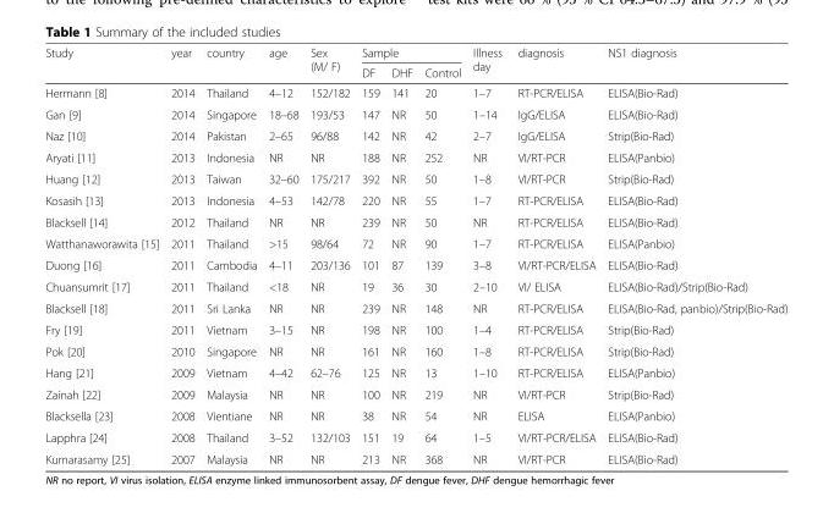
<table><thead><tr><td rowspan="2">Study</td><td rowspan="2">year</td><td rowspan="2">country</td><td rowspan="2">age</td><td rowspan="2">Sex (M/ F)</td><td colspan="3">Sample</td><td rowspan="2">Illness day</td><td rowspan="2">diagnosis</td><td rowspan="2">NS1 diagnosis</td></tr><tr><td>DF</td><td>DHF</td><td>Control</td></tr></thead><tbody><tr><td>Hermann [8]</td><td>2014</td><td>Thailand</td><td>4–12</td><td>152/182</td><td>159</td><td>141</td><td>20</td><td>1–7</td><td>RT-PCR/ELISA</td><td>ELISA(Bio-Rad)</td></tr><tr><td>Gan [9]</td><td>2014</td><td>Singapore</td><td>18–68</td><td>193/53</td><td>147</td><td>NR</td><td>50</td><td>1–14</td><td>IgG/ELISA</td><td>ELISA(Bio-Rad)</td></tr><tr><td>Naz [10]</td><td>2014</td><td>Pakistan</td><td>2–65</td><td>96/88</td><td>142</td><td>NR</td><td>42</td><td>2–7</td><td>IgG/ELISA</td><td>Strip(Bio-Rad)</td></tr><tr><td>Aryati [11]</td><td>2013</td><td>Indonesia</td><td>NR</td><td>NR</td><td>188</td><td>NR</td><td>252</td><td>NR</td><td>VI/RT-PCR</td><td>ELISA(Panbio)</td></tr><tr><td>Huang [12]</td><td>2013</td><td>Taiwan</td><td>32–60</td><td>175/217</td><td>392</td><td>NR</td><td>50</td><td>1–8</td><td>VI/RT-PCR</td><td>Strip(Bio-Rad)</td></tr><tr><td>Kosasih [13]</td><td>2013</td><td>Indonesia</td><td>4–53</td><td>142/78</td><td>220</td><td>NR</td><td>55</td><td>1–7</td><td>RT-PCR/ELISA</td><td>ELISA(Bio-Rad)</td></tr><tr><td>Blacksell [14]</td><td>2012</td><td>Thailand</td><td>NR</td><td>NR</td><td>239</td><td>NR</td><td>50</td><td>NR</td><td>RT-PCR/ELISA</td><td>ELISA(Bio-Rad)</td></tr><tr><td>Watthanaworawita [15]</td><td>2011</td><td>Thailand</td><td>&gt;15</td><td>98/64</td><td>72</td><td>NR</td><td>90</td><td>1–7</td><td>RT-PCR/ELISA</td><td>ELISA(Panbio)</td></tr><tr><td>Duong [16]</td><td>2011</td><td>Cambodia</td><td>4–11</td><td>203/136</td><td>101</td><td>87</td><td>139</td><td>3–8</td><td>VI/RT-PCR/ELISA</td><td>ELISA(Bio-Rad)</td></tr><tr><td>Chuansumrit [17]</td><td>2011</td><td>Thailand</td><td>&lt;18</td><td>NR</td><td>19</td><td>36</td><td>30</td><td>2–10</td><td>VI/ ELISA</td><td>ELISA(Bio-Rad)/Strip(Bio-Rad)</td></tr><tr><td>Blacksell [18]</td><td>2011</td><td>Sri Lanka</td><td>NR</td><td>NR</td><td>239</td><td>NR</td><td>148</td><td>NR</td><td>RT-PCR/ELISA</td><td>ELISA(Bio-Rad, panbio)/Strip(Bio-Rad)</td></tr><tr><td>Fry [19]</td><td>2011</td><td>Vietnam</td><td>3–15</td><td>NR</td><td>198</td><td>NR</td><td>100</td><td>1–4</td><td>RT-PCR/ELISA</td><td>Strip(Bio-Rad)</td></tr><tr><td>Pok [20]</td><td>2010</td><td>Singapore</td><td>NR</td><td>NR</td><td>161</td><td>NR</td><td>160</td><td>1–8</td><td>RT-PCR/ELISA</td><td>Strip(Bio-Rad)</td></tr><tr><td>Hang [21]</td><td>2009</td><td>Vietnam</td><td>4–42</td><td>62–76</td><td>125</td><td>NR</td><td>13</td><td>1–10</td><td>RT-PCR/ELISA</td><td>ELISA(Panbio)</td></tr><tr><td>Zainah [22]</td><td>2009</td><td>Malaysia</td><td>NR</td><td>NR</td><td>100</td><td>NR</td><td>219</td><td>NR</td><td>VI/RT-PCR</td><td>Strip(Bio-Rad)</td></tr><tr><td>Blacksella [23]</td><td>2008</td><td>Vientiane</td><td>NR</td><td>NR</td><td>38</td><td>NR</td><td>54</td><td>NR</td><td>ELISA</td><td>ELISA(Panbio)</td></tr><tr><td>Lapphra [24]</td><td>2008</td><td>Thailand</td><td>3–52</td><td>132/103</td><td>151</td><td>19</td><td>64</td><td>1–5</td><td>VI/RT-PCR/ELISA</td><td>ELISA(Bio-Rad)</td></tr><tr><td>Kumarasamy [25]</td><td>2007</td><td>Malaysia</td><td>NR</td><td>NR</td><td>213</td><td>NR</td><td>368</td><td>NR</td><td>VI/RT-PCR</td><td>ELISA(Bio-Rad)</td></tr></tbody></table>